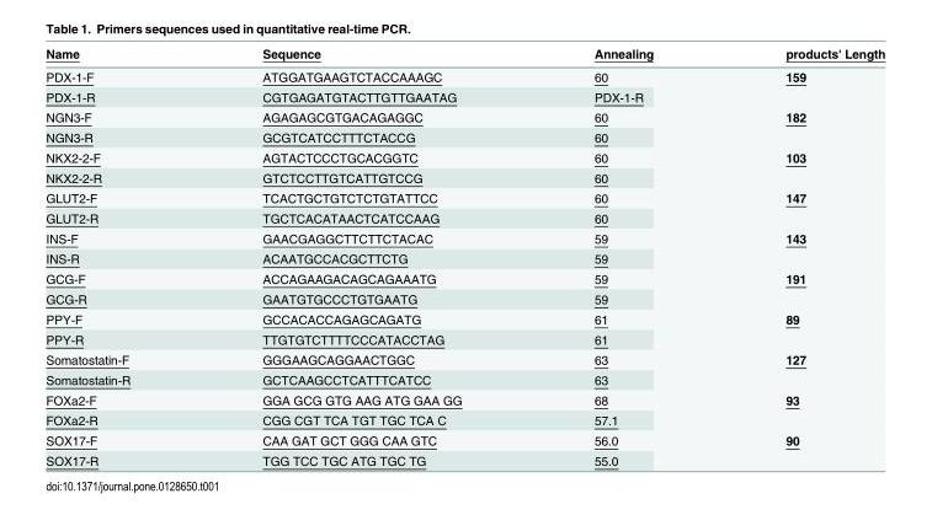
<table><thead><tr><td>Name</td><td>Sequence</td><td>Annealing</td><td>products&#x27; Length</td></tr></thead><tbody><tr><td>PDX-1-F</td><td>ATGGATGAAGTCTACCAAAGC</td><td>60</td><td rowspan="2">159</td></tr><tr><td>PDX-1-R</td><td>CGTGAGATGTACTTGTTGAATAG</td><td>PDX-1-R</td></tr><tr><td>NGN3-F</td><td>AGAGAGCGTGACAGAGGC</td><td>60</td><td rowspan="2">182</td></tr><tr><td>NGN3-R</td><td>GCGTCATCCTTTCTACCG</td><td>60</td></tr><tr><td>NKX2-2-F</td><td>AGTACTCCCTGCACGGTC</td><td>60</td><td rowspan="2">103</td></tr><tr><td>NKX2-2-R</td><td>GTCTCCTTGTCATTGTCCG</td><td>60</td></tr><tr><td>GLUT2-F</td><td>TCACTGCTGTCTCTGTATTCC</td><td>60</td><td rowspan="2">147</td></tr><tr><td>GLUT2-R</td><td>TGCTCACATAACTCATCCAAG</td><td>60</td></tr><tr><td>INS-F</td><td>GAACGAGGCTTCTTCTACAC</td><td>59</td><td rowspan="2">143</td></tr><tr><td>INS-R</td><td>ACAATGCCACGCTTCTG</td><td>59</td></tr><tr><td>GCG-F</td><td>ACCAGAAGACAGCAGAAATG</td><td>59</td><td rowspan="2">191</td></tr><tr><td>GCG-R</td><td>GAATGTGCCCTGTGAATG</td><td>59</td></tr><tr><td>PPY-F</td><td>GCCACACCAGAGCAGATG</td><td>61</td><td rowspan="2">89</td></tr><tr><td>PPY-R</td><td>TTGTGTCTTTTCCCATACCTAG</td><td>61</td></tr><tr><td>Somatostatin-F</td><td>GGGAAGCAGGAACTGGC</td><td>63</td><td rowspan="2">127</td></tr><tr><td>Somatostatin-R</td><td>GCTCAAGCCTCATTTCATCC</td><td>63</td></tr><tr><td>FOXa2-F</td><td>GGA GCG GTG AAG ATG GAA GG</td><td>68</td><td rowspan="2">93</td></tr><tr><td>FOXa2-R</td><td>CGG CGT TCA TGT TGC TCA C</td><td>57.1</td></tr><tr><td>SOX17-F</td><td>CAA GAT GCT GGG CAA GTC</td><td>56.0</td><td rowspan="2">90</td></tr><tr><td>SOX17-R</td><td>TGG TCC TGC ATG TGC TG</td><td>55.0</td></tr></tbody></table>